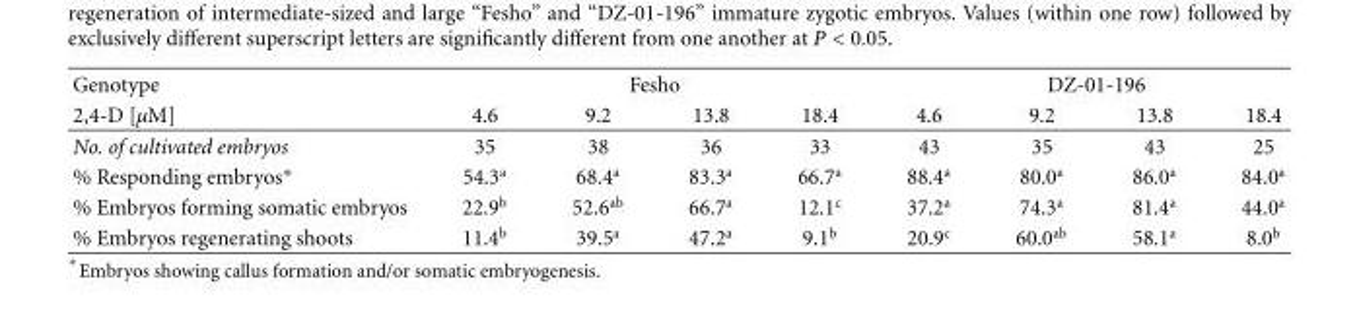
<table><thead><tr><td rowspan="2">Genotype 2,4-D [µM]</td><td colspan="4">Fesho</td><td colspan="4">DZ-01-196</td></tr><tr><td>4.6</td><td>9.2</td><td>13.8</td><td>18.4</td><td>4.6</td><td>9.2</td><td>13.8</td><td>18.4</td></tr></thead><tbody><tr><td>No. of cultivated embryos</td><td>35</td><td>38</td><td>36</td><td>33</td><td>43</td><td>35</td><td>43</td><td>25</td></tr><tr><td>% Responding embryos∗</td><td>54.3<sup>a</sup></td><td>68.4<sup>a</sup></td><td>83.3<sup>a</sup></td><td>66.7<sup>a</sup></td><td>88.4<sup>a</sup></td><td>80.0<sup>a</sup></td><td>86.0<sup>a</sup></td><td>84.0<sup>a</sup></td></tr><tr><td>% Embryos forming somatic embryos</td><td>22.9<sup>b</sup></td><td>52.6<sup>ab</sup></td><td>66.7<sup>a</sup></td><td>12.1<sup>c</sup></td><td>37.2<sup>a</sup></td><td>74.3<sup>a</sup></td><td>81.4<sup>a</sup></td><td>44.0<sup>a</sup></td></tr><tr><td>% Embryos regenerating shoots</td><td>11.4<sup>b</sup></td><td>39.5<sup>a</sup></td><td>47.2<sup>a</sup></td><td>9.1<sup>b</sup></td><td>20.9<sup>c</sup></td><td>60.0<sup>ab</sup></td><td>58.1<sup>a</sup></td><td>8.0<sup>b</sup></td></tr></tbody></table>